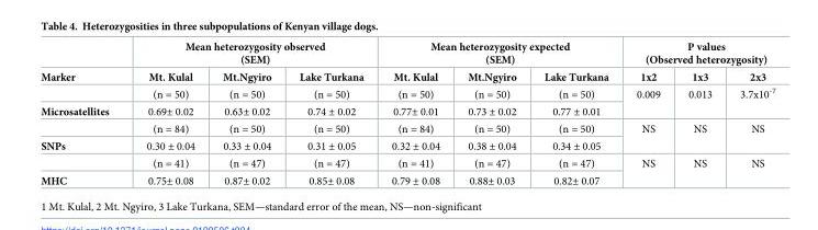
<table><thead><tr><td rowspan="2">Marker</td><td colspan="3">Mean heterozygosity observed (SEM)</td><td colspan="3">Mean heterozygosity expected (SEM)</td><td colspan="3">P values (Observed heterozygosity)</td></tr><tr><td>Mt. Kulal</td><td>Mt.Ngyiro</td><td>Lake Turkana</td><td>Mt. Kulal</td><td>Mt.Ngyiro</td><td>Lake Turkana</td><td>1x2</td><td>1x3</td><td>2x3</td></tr></thead><tbody><tr><td></td><td>(n = 50)</td><td>(n = 50)</td><td>(n = 50)</td><td>(n = 50)</td><td>(n = 50)</td><td>(n = 50)</td><td rowspan="2">0.009</td><td rowspan="2">0.013</td><td rowspan="2">3.7x10<sup>-7</sup></td></tr><tr><td rowspan="2">Microsatellites</td><td>0.69± 0.02</td><td>0.63± 0.02</td><td>0.74 ± 0.02</td><td>0.77± 0.01</td><td>0.73 ± 0.02</td><td>0.77 ± 0.01</td></tr><tr><td>(n = 84)</td><td>(n = 50)</td><td>(n = 50)</td><td>(n = 84)</td><td>(n = 50)</td><td>(n = 50)</td><td rowspan="2">NS</td><td rowspan="2">NS</td><td rowspan="2">NS</td></tr><tr><td rowspan="2">SNPs</td><td>0.30 ± 0.04</td><td>0.33 ± 0.04</td><td>0.31 ± 0.05</td><td>0.32 ± 0.04</td><td>0.38 ± 0.04</td><td>0.34 ± 0.05</td></tr><tr><td>(n = 41)</td><td>(n = 47)</td><td>(n = 47)</td><td>(n = 41)</td><td>(n = 47)</td><td>(n = 47)</td><td rowspan="2">NS</td><td rowspan="2">NS</td><td rowspan="2">NS</td></tr><tr><td>MHC</td><td>0.75± 0.08</td><td>0.87± 0.02</td><td>0.85± 0.08</td><td>0.79 ± 0.08</td><td>0.88± 0.03</td><td>0.82± 0.07</td></tr></tbody></table>